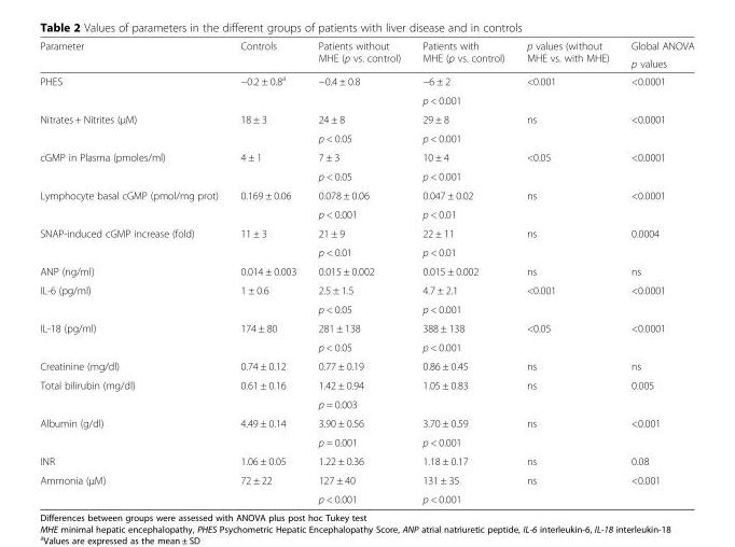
<table><thead><tr><td rowspan="2">Parameter</td><td rowspan="2">Controls</td><td rowspan="2">Patients without MHE (p vs. control)</td><td rowspan="2">Patients with MHE (p vs. control)</td><td rowspan="2">p values (without MHE vs. with MHE)</td><td rowspan="2">Global ANOVA p values</td></tr><tr></tr></thead><tbody><tr><td rowspan="2">PHES</td><td rowspan="2">−0.2 ± 0.8<sup>a</sup></td><td rowspan="2">−0.4 ± 0.8</td><td>−6 ± 2</td><td rowspan="2">&lt;0.001</td><td rowspan="2">&lt;0.0001</td></tr><tr><td>p &lt; 0.001</td></tr><tr><td rowspan="2">Nitrates + Nitrites (μM)</td><td rowspan="2">18 ± 3</td><td>24 ± 8</td><td>29 ± 8</td><td rowspan="2">ns</td><td rowspan="2">&lt;0.0001</td></tr><tr><td>p &lt; 0.05</td><td>p &lt; 0.001</td></tr><tr><td rowspan="2">cGMP in Plasma (pmoles/ml)</td><td rowspan="2">4 ± 1</td><td>7 ± 3</td><td>10 ± 4</td><td rowspan="2">&lt;0.05</td><td rowspan="2">&lt;0.0001</td></tr><tr><td>p &lt; 0.05</td><td>p &lt; 0.001</td></tr><tr><td rowspan="2">Lymphocyte basal cGMP (pmol/mg prot)</td><td rowspan="2">0.169 ± 0.06</td><td>0.078 ± 0.06</td><td>0.047 ± 0.02</td><td rowspan="2">ns</td><td rowspan="2">&lt;0.0001</td></tr><tr><td>p &lt; 0.001</td><td>p &lt; 0.01</td></tr><tr><td rowspan="2">SNAP-induced cGMP increase (fold)</td><td rowspan="2">11 ± 3</td><td>21 ± 9</td><td>22 ± 11</td><td rowspan="2">ns</td><td rowspan="2">0.0004</td></tr><tr><td>p &lt; 0.01</td><td>p &lt; 0.01</td></tr><tr><td>ANP (ng/ml)</td><td>0.014 ± 0.003</td><td>0.015 ± 0.002</td><td>0.015 ± 0.002</td><td>ns</td><td>ns</td></tr><tr><td rowspan="2">IL-6 (pg/ml)</td><td rowspan="2">1 ± 0.6</td><td>2.5 ± 1.5</td><td>4.7 ± 2.1</td><td rowspan="2">&lt;0.001</td><td rowspan="2">&lt;0.0001</td></tr><tr><td>p &lt; 0.05</td><td>p &lt; 0.001</td></tr><tr><td rowspan="2">IL-18 (pg/ml)</td><td rowspan="2">174 ± 80</td><td>281 ± 138</td><td>388 ± 138</td><td rowspan="2">&lt;0.05</td><td rowspan="2">&lt;0.0001</td></tr><tr><td>p &lt; 0.05</td><td>p &lt; 0.001</td></tr><tr><td>Creatinine (mg/dl)</td><td>0.74 ± 0.12</td><td>0.77 ± 0.19</td><td>0.86 ± 0.45</td><td>ns</td><td>ns</td></tr><tr><td rowspan="2">Total bilirubin (mg/dl)</td><td rowspan="2">0.61 ± 0.16</td><td>1.42 ± 0.94</td><td rowspan="2">1.05 ± 0.83</td><td rowspan="2">ns</td><td rowspan="2">0.005</td></tr><tr><td>p = 0.003</td></tr><tr><td rowspan="2">Albumin (g/dl)</td><td rowspan="2">4.49 ± 0.14</td><td>3.90 ± 0.56</td><td>3.70 ± 0.59</td><td rowspan="2">ns</td><td rowspan="2">&lt;0.001</td></tr><tr><td>p = 0.001</td><td>p &lt; 0.001</td></tr><tr><td>INR</td><td>1.06 ± 0.05</td><td>1.22 ± 0.36</td><td>1.18 ± 0.17</td><td>ns</td><td>0.08</td></tr><tr><td rowspan="2">Ammonia (μM)</td><td rowspan="2">72 ± 22</td><td>127 ± 40</td><td>131 ± 35</td><td rowspan="2">ns</td><td rowspan="2">&lt;0.001</td></tr><tr><td>p &lt; 0.001</td><td>p &lt; 0.001</td></tr></tbody></table>